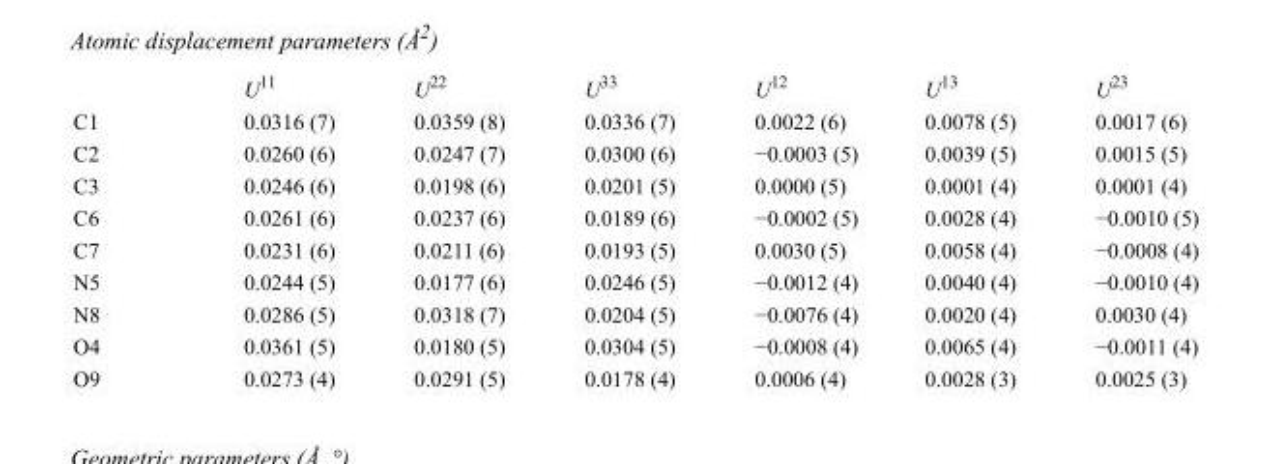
<table><thead><tr><td></td><td>U<sup>11</sup></td><td>U<sup>22</sup></td><td>U<sup>33</sup></td><td>U<sup>12</sup></td><td>U<sup>13</sup></td><td>U<sup>23</sup></td></tr></thead><tbody><tr><td>C1</td><td>0.0316 (7)</td><td>0.0359 (8)</td><td>0.0336 (7)</td><td>0.0022 (6)</td><td>0.0078 (5)</td><td>0.0017 (6)</td></tr><tr><td>C2</td><td>0.0260 (6)</td><td>0.0247 (7)</td><td>0.0300 (6)</td><td>−0.0003 (5)</td><td>0.0039 (5)</td><td>0.0015 (5)</td></tr><tr><td>C3</td><td>0.0246 (6)</td><td>0.0198 (6)</td><td>0.0201 (5)</td><td>0.0000 (5)</td><td>0.0001 (4)</td><td>0.0001 (4)</td></tr><tr><td>C6</td><td>0.0261 (6)</td><td>0.0237 (6)</td><td>0.0189 (6)</td><td>−0.0002 (5)</td><td>0.0028 (4)</td><td>−0.0010 (5)</td></tr><tr><td>C7</td><td>0.0231 (6)</td><td>0.0211 (6)</td><td>0.0193 (5)</td><td>0.0030 (5)</td><td>0.0058 (4)</td><td>−0.0008 (4)</td></tr><tr><td>N5</td><td>0.0244 (5)</td><td>0.0177 (6)</td><td>0.0246 (5)</td><td>−0.0012 (4)</td><td>0.0040 (4)</td><td>−0.0010 (4)</td></tr><tr><td>N8</td><td>0.0286 (5)</td><td>0.0318 (7)</td><td>0.0204 (5)</td><td>−0.0076 (4)</td><td>0.0020 (4)</td><td>0.0030 (4)</td></tr><tr><td>O4</td><td>0.0361 (5)</td><td>0.0180 (5)</td><td>0.0304 (5)</td><td>−0.0008 (4)</td><td>0.0065 (4)</td><td>−0.0011 (4)</td></tr><tr><td>O9</td><td>0.0273 (4)</td><td>0.0291 (5)</td><td>0.0178 (4)</td><td>0.0006 (4)</td><td>0.0028 (3)</td><td>0.0025 (3)</td></tr></tbody></table>